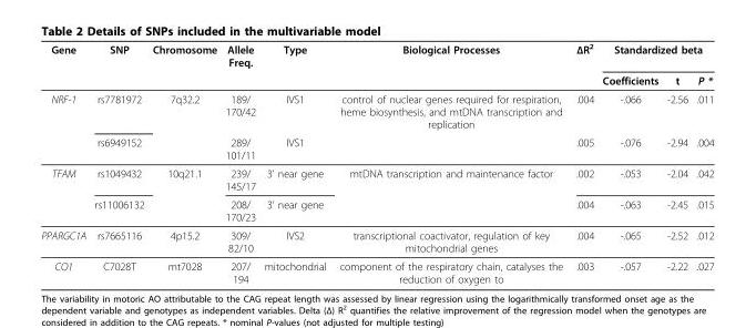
<table><thead><tr><td rowspan="2">Gene</td><td rowspan="2">SNP</td><td rowspan="2">Chromosome</td><td rowspan="2">Allele Freq.</td><td rowspan="2">Type</td><td rowspan="2">Biological Processes</td><td rowspan="2">ΔR<sup>2</sup></td><td colspan="3">Standardized beta</td></tr><tr><td>Coefficients</td><td>t</td><td>P *</td></tr></thead><tbody><tr><td rowspan="2">NRF-1</td><td>rs7781972</td><td>7q32.2</td><td>189/ 170/42</td><td>IVS1</td><td>control of nuclear genes required for respiration, heme biosynthesis, and mtDNA transcription and replication</td><td>.004</td><td>-.066</td><td>-2.56</td><td>.011</td></tr><tr><td>rs6949152</td><td></td><td>289/ 101/11</td><td>IVS1</td><td></td><td>.005</td><td>-.076</td><td>-2.94</td><td>.004</td></tr><tr><td rowspan="2">TFAM</td><td>rs1049432</td><td>10q21.1</td><td>239/ 145/17</td><td>3’ near gene</td><td>mtDNA transcription and maintenance factor</td><td>.002</td><td>-.053</td><td>-2.04</td><td>.042</td></tr><tr><td>rs11006132</td><td></td><td>208/ 170/23</td><td>3’ near gene</td><td></td><td>.004</td><td>-.063</td><td>-2.45</td><td>.015</td></tr><tr><td>PPARGC1A</td><td>rs7665116</td><td>4p15.2</td><td>309/ 82/10</td><td>IVS2</td><td>transcriptional coactivator, regulation of key mitochondrial genes</td><td>.004</td><td>-.065</td><td>-2.52</td><td>.012</td></tr><tr><td>CO1</td><td>C7028T</td><td>mt7028</td><td>207/ 194</td><td>mitochondrial</td><td>component of the respiratory chain, catalyses the reduction of oxygen to</td><td>.003</td><td>-.057</td><td>-2.22</td><td>.027</td></tr></tbody></table>